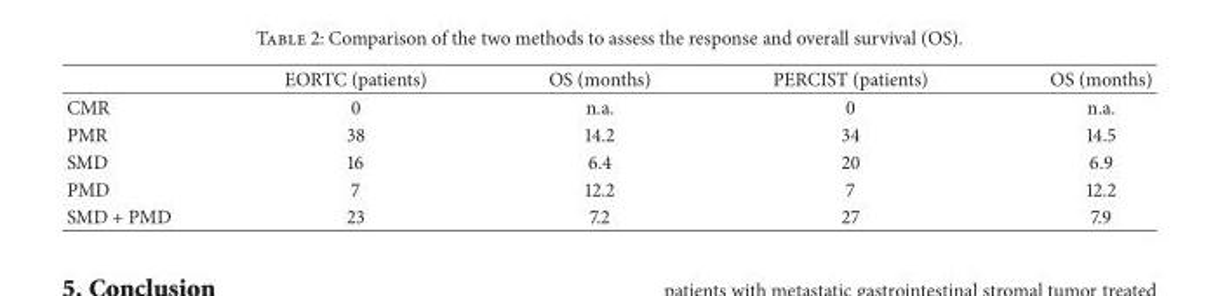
<table><thead><tr><td></td><td>EORTC (patients)</td><td>OS (months)</td><td>PERCIST (patients)</td><td>OS (months)</td></tr></thead><tbody><tr><td>CMR</td><td>0</td><td>n.a.</td><td>0</td><td>n.a.</td></tr><tr><td>PMR</td><td>38</td><td>14.2</td><td>34</td><td>14.5</td></tr><tr><td>SMD</td><td>16</td><td>6.4</td><td>20</td><td>6.9</td></tr><tr><td>PMD</td><td>7</td><td>12.2</td><td>7</td><td>12.2</td></tr><tr><td>SMD + PMD</td><td>23</td><td>7.2</td><td>27</td><td>7.9</td></tr></tbody></table>